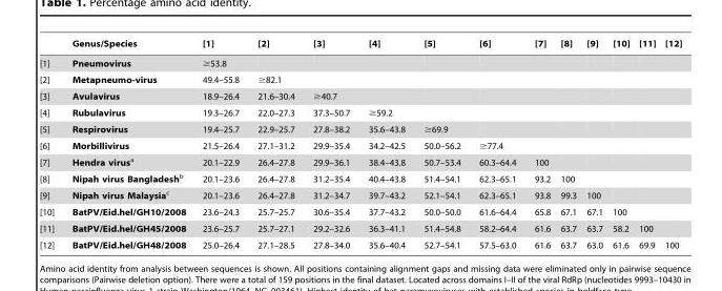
<table><thead><tr><td></td><td>Genus/Species</td><td>[1]</td><td>[2]</td><td>[3]</td><td>[4]</td><td>[5]</td><td>[6]</td><td>[7]</td><td>[8]</td><td>[9]</td><td>[10]</td><td>[11]</td><td>[12]</td></tr></thead><tbody><tr><td>[1]</td><td>Pneumovirus</td><td>≥53.8</td><td></td><td></td><td></td><td></td><td></td><td></td><td></td><td></td><td></td><td></td><td></td></tr><tr><td>[2]</td><td>Metapneumo-virus</td><td>49.4–55.8</td><td>≥82.1</td><td></td><td></td><td></td><td></td><td></td><td></td><td></td><td></td><td></td><td></td></tr><tr><td>[3]</td><td>Avulavirus</td><td>18.9–26.4</td><td>21.6–30.4</td><td>≥40.7</td><td></td><td></td><td></td><td></td><td></td><td></td><td></td><td></td><td></td></tr><tr><td>[4]</td><td>Rubulavirus</td><td>19.3–26.7</td><td>22.0–27.3</td><td>37.3–50.7</td><td>≥59.2</td><td></td><td></td><td></td><td></td><td></td><td></td><td></td><td></td></tr><tr><td>[5]</td><td>Respirovirus</td><td>19.4–25.7</td><td>22.9–25.7</td><td>27.8–38.2</td><td>35.6–43.8</td><td>≥69.9</td><td></td><td></td><td></td><td></td><td></td><td></td><td></td></tr><tr><td>[6]</td><td>Morbillivirus</td><td>21.5–26.4</td><td>27.1–31.2</td><td>29.9–35.4</td><td>34.2–42.5</td><td>50.0–56.2</td><td>≥77.4</td><td></td><td></td><td></td><td></td><td></td><td></td></tr><tr><td>[7]</td><td>Hendra virusa</td><td>20.1–22.9</td><td>26.4–27.8</td><td>29.9–36.1</td><td>38.4–43.8</td><td>50.7–53.4</td><td>60.3–64.4</td><td>100</td><td></td><td></td><td></td><td></td><td></td></tr><tr><td>[8]</td><td>Nipah virus Bangladeshb</td><td>20.1–23.6</td><td>26.4–27.8</td><td>31.2–35.4</td><td>40.4–43.8</td><td>51.4–54.1</td><td>62.3–65.1</td><td>93.2</td><td>100</td><td></td><td></td><td></td><td></td></tr><tr><td>[9]</td><td>Nipah virus Malaysiac</td><td>20.1–23.6</td><td>26.4–27.8</td><td>31.2–34.7</td><td>39.7–43.2</td><td>52.1–54.1</td><td>62.3–65.1</td><td>93.8</td><td>99.3</td><td>100</td><td></td><td></td><td></td></tr><tr><td>[10]</td><td>BatPV/Eid.hel/GH10/2008</td><td>23.6–24.3</td><td>25.7–25.7</td><td>30.6–35.4</td><td>37.7–43.2</td><td>50.0–50.0</td><td>61.6–64.4</td><td>65.8</td><td>67.1</td><td>67.1</td><td>100</td><td></td><td></td></tr><tr><td>[11]</td><td>BatPV/Eid.hel/GH45/2008</td><td>23.6–25.7</td><td>25.7–27.1</td><td>29.2–32.6</td><td>36.3–41.1</td><td>51.4–54.8</td><td>58.2–64.4</td><td>61.6</td><td>63.7</td><td>63.7</td><td>58.2</td><td>100</td><td></td></tr><tr><td>[12]</td><td>BatPV/Eid.hel/GH48/2008</td><td>25.0–26.4</td><td>27.1–28.5</td><td>27.8–34.0</td><td>35.6–40.4</td><td>52.7–54.1</td><td>57.5–63.0</td><td>61.6</td><td>63.7</td><td>63.0</td><td>61.6</td><td>69.9</td><td>100</td></tr></tbody></table>